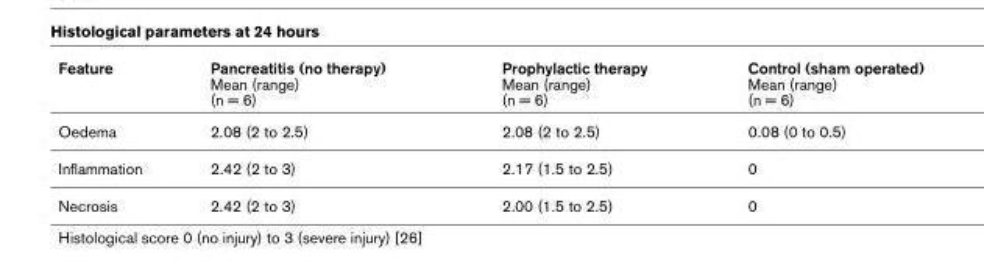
<table><thead><tr><td>Feature</td><td>Pancreatitis (no therapy) Mean (range) (n = 6)</td><td>Prophylactic therapy Mean (range) (n = 6)</td><td>Control (sham operated) Mean (range) (n = 6)</td></tr></thead><tbody><tr><td>Oedema</td><td>2.08 (2 to 2.5)</td><td>2.08 (2 to 2.5)</td><td>0.08 (0 to 0.5)</td></tr><tr><td>Inflammation</td><td>2.42 (2 to 3)</td><td>2.17 (1.5 to 2.5)</td><td>0</td></tr><tr><td>Necrosis</td><td>2.42 (2 to 3)</td><td>2.00 (1.5 to 2.5)</td><td>0</td></tr></tbody></table>